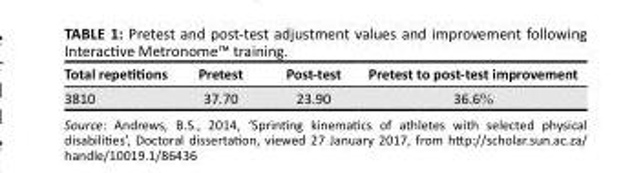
<table><thead><tr><td>Total repetitions</td><td>Pretest</td><td>Post-test</td><td>Pretest to post-test improvement</td></tr></thead><tbody><tr><td>3810</td><td>37.70</td><td>23.90</td><td>36.6%</td></tr></tbody></table>